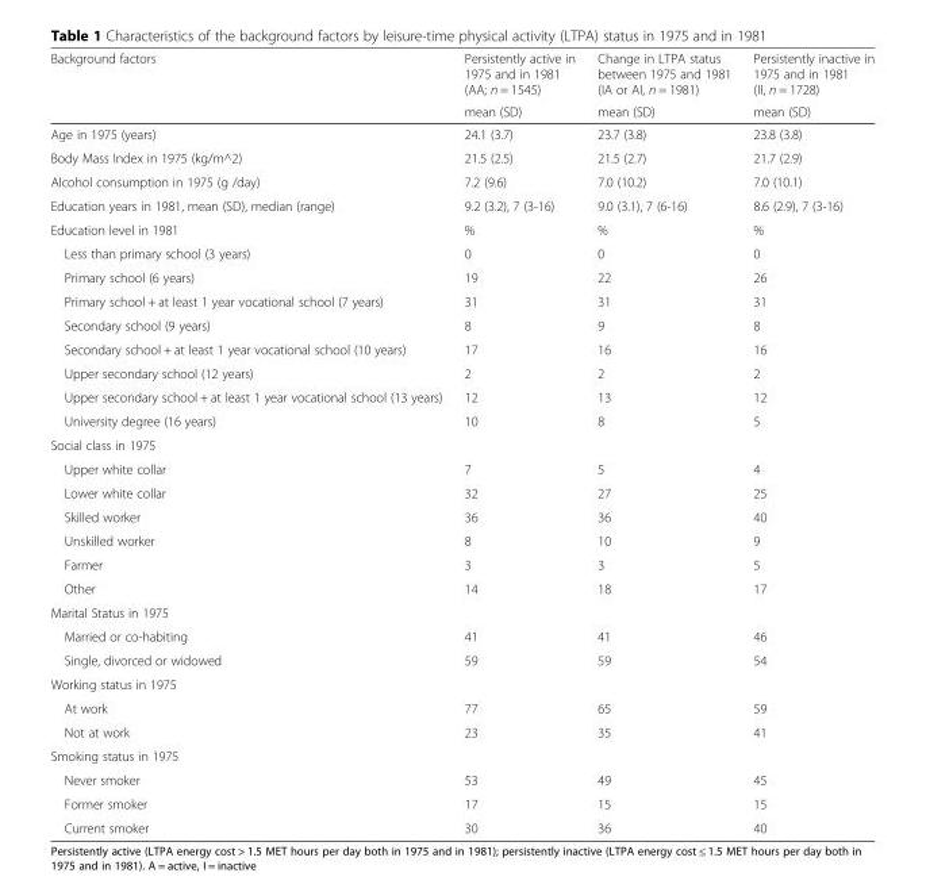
<table><thead><tr><td rowspan="2">Background factors</td><td rowspan="2">Persistently active in 1975 and in 1981 (AA; n = 1545) mean (SD)</td><td rowspan="2">Change in LTPA status between 1975 and 1981 (IA or AI, n = 1981) mean (SD)</td><td rowspan="2">Persistently inactive in 1975 and in 1981 (II, n = 1728) mean (SD)</td></tr><tr></tr></thead><tbody><tr><td>Age in 1975 (years)</td><td>24.1 (3.7)</td><td>23.7 (3.8)</td><td>23.8 (3.8)</td></tr><tr><td>Body Mass Index in 1975 (kg/m^2)</td><td>21.5 (2.5)</td><td>21.5 (2.7)</td><td>21.7 (2.9)</td></tr><tr><td>Alcohol consumption in 1975 (g /day)</td><td>7.2 (9.6)</td><td>7.0 (10.2)</td><td>7.0 (10.1)</td></tr><tr><td>Education years in 1981, mean (SD), median (range)</td><td>9.2 (3.2), 7 (3-16)</td><td>9.0 (3.1), 7 (6-16)</td><td>8.6 (2.9), 7 (3-16)</td></tr><tr><td>Education level in 1981</td><td>%</td><td>%</td><td>%</td></tr><tr><td>Less than primary school (3 years)</td><td>0</td><td>0</td><td>0</td></tr><tr><td>Primary school (6 years)</td><td>19</td><td>22</td><td>26</td></tr><tr><td>Primary school + at least 1 year vocational school (7 years)</td><td>31</td><td>31</td><td>31</td></tr><tr><td>Secondary school (9 years)</td><td>8</td><td>9</td><td>8</td></tr><tr><td>Secondary school + at least 1 year vocational school (10 years)</td><td>17</td><td>16</td><td>16</td></tr><tr><td>Upper secondary school (12 years)</td><td>2</td><td>2</td><td>2</td></tr><tr><td>Upper secondary school + at least 1 year vocational school (13 years)</td><td>12</td><td>13</td><td>12</td></tr><tr><td>University degree (16 years)</td><td>10</td><td>8</td><td>5</td></tr><tr><td colspan="4">Social class in 1975</td></tr><tr><td>Upper white collar</td><td>7</td><td>5</td><td>4</td></tr><tr><td>Lower white collar</td><td>32</td><td>27</td><td>25</td></tr><tr><td>Skilled worker</td><td>36</td><td>36</td><td>40</td></tr><tr><td>Unskilled worker</td><td>8</td><td>10</td><td>9</td></tr><tr><td>Farmer</td><td>3</td><td>3</td><td>5</td></tr><tr><td>Other</td><td>14</td><td>18</td><td>17</td></tr><tr><td colspan="4">Marital Status in 1975</td></tr><tr><td>Married or co-habiting</td><td>41</td><td>41</td><td>46</td></tr><tr><td>Single, divorced or widowed</td><td>59</td><td>59</td><td>54</td></tr><tr><td colspan="4">Working status in 1975</td></tr><tr><td>At work</td><td>77</td><td>65</td><td>59</td></tr><tr><td>Not at work</td><td>23</td><td>35</td><td>41</td></tr><tr><td colspan="4">Smoking status in 1975</td></tr><tr><td>Never smoker</td><td>53</td><td>49</td><td>45</td></tr><tr><td>Former smoker</td><td>17</td><td>15</td><td>15</td></tr><tr><td>Current smoker</td><td>30</td><td>36</td><td>40</td></tr></tbody></table>